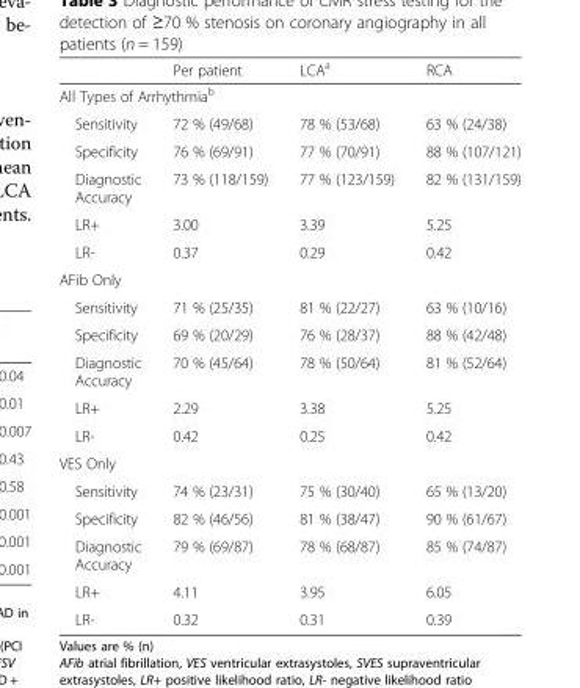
<table><thead><tr><td></td><td>Per patient</td><td>LCA<sup>a</sup></td><td>RCA</td></tr></thead><tbody><tr><td colspan="4">All Types of Arrhythmia<sup>b</sup></td></tr><tr><td>Sensitivity</td><td>72 % (49/68)</td><td>78 % (53/68)</td><td>63 % (24/38)</td></tr><tr><td>Specificity</td><td>76 % (69/91)</td><td>77 % (70/91)</td><td>88 % (107/121)</td></tr><tr><td>Diagnostic Accuracy</td><td>73 % (118/159)</td><td>77 % (123/159)</td><td>82 % (131/159)</td></tr><tr><td>LR+</td><td>3.00</td><td>3.39</td><td>5.25</td></tr><tr><td>LR-</td><td>0.37</td><td>0.29</td><td>0.42</td></tr><tr><td colspan="4">AFib Only</td></tr><tr><td>Sensitivity</td><td>71 % (25/35)</td><td>81 % (22/27)</td><td>63 % (10/16)</td></tr><tr><td>Specificity</td><td>69 % (20/29)</td><td>76 % (28/37)</td><td>88 % (42/48)</td></tr><tr><td>Diagnostic Accuracy</td><td>70 % (45/64)</td><td>78 % (50/64)</td><td>81 % (52/64)</td></tr><tr><td>LR+</td><td>2.29</td><td>3.38</td><td>5.25</td></tr><tr><td>LR-</td><td>0.42</td><td>0.25</td><td>0.42</td></tr><tr><td colspan="4">VES Only</td></tr><tr><td>Sensitivity</td><td>74 % (23/31)</td><td>75 % (30/40)</td><td>65 % (13/20)</td></tr><tr><td>Specificity</td><td>82 % (46/56)</td><td>81 % (38/47)</td><td>90 % (61/67)</td></tr><tr><td>Diagnostic Accuracy</td><td>79 % (69/87)</td><td>78 % (68/87)</td><td>85 % (74/87)</td></tr><tr><td>LR+</td><td>4.11</td><td>3.95</td><td>6.05</td></tr><tr><td>LR-</td><td>0.32</td><td>0.31</td><td>0.39</td></tr></tbody></table>